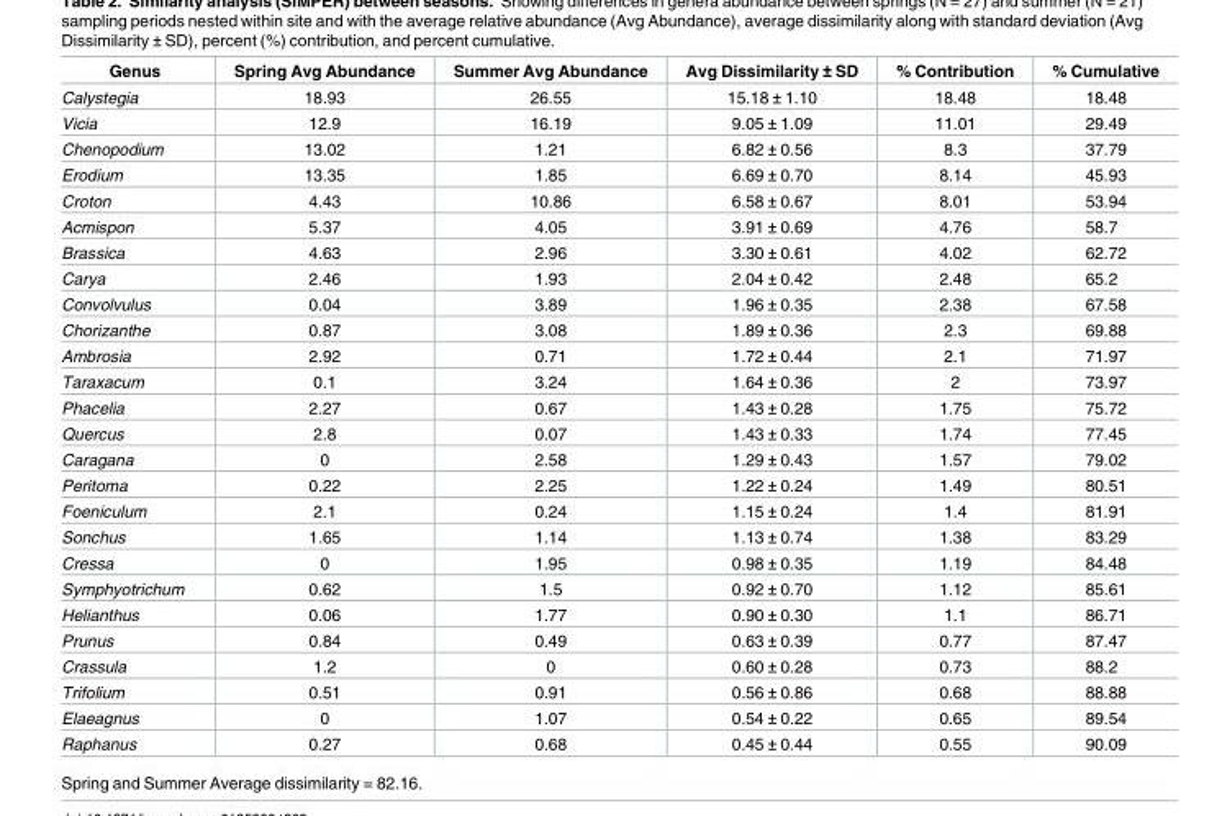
<table><thead><tr><td>Genus</td><td>Spring Avg Abundance</td><td>Summer Avg Abundance</td><td>Avg Dissimilarity ± SD</td><td>% Contribution</td><td>% Cumulative</td></tr></thead><tbody><tr><td>Calystegia</td><td>18.93</td><td>26.55</td><td>15.18 ± 1.10</td><td>18.48</td><td>18.48</td></tr><tr><td>Vicia</td><td>12.9</td><td>16.19</td><td>9.05 ± 1.09</td><td>11.01</td><td>29.49</td></tr><tr><td>Chenopodium</td><td>13.02</td><td>1.21</td><td>6.82 ± 0.56</td><td>8.3</td><td>37.79</td></tr><tr><td>Erodium</td><td>13.35</td><td>1.85</td><td>6.69 ± 0.70</td><td>8.14</td><td>45.93</td></tr><tr><td>Croton</td><td>4.43</td><td>10.86</td><td>6.58 ± 0.67</td><td>8.01</td><td>53.94</td></tr><tr><td>Acmispon</td><td>5.37</td><td>4.05</td><td>3.91 ± 0.69</td><td>4.76</td><td>58.7</td></tr><tr><td>Brassica</td><td>4.63</td><td>2.96</td><td>3.30 ± 0.61</td><td>4.02</td><td>62.72</td></tr><tr><td>Carya</td><td>2.46</td><td>1.93</td><td>2.04 ± 0.42</td><td>2.48</td><td>65.2</td></tr><tr><td>Convolvulus</td><td>0.04</td><td>3.89</td><td>1.96 ± 0.35</td><td>2.38</td><td>67.58</td></tr><tr><td>Chorizanthe</td><td>0.87</td><td>3.08</td><td>1.89 ± 0.36</td><td>2.3</td><td>69.88</td></tr><tr><td>Ambrosia</td><td>2.92</td><td>0.71</td><td>1.72 ± 0.44</td><td>2.1</td><td>71.97</td></tr><tr><td>Taraxacum</td><td>0.1</td><td>3.24</td><td>1.64 ± 0.36</td><td>2</td><td>73.97</td></tr><tr><td>Phacelia</td><td>2.27</td><td>0.67</td><td>1.43 ± 0.28</td><td>1.75</td><td>75.72</td></tr><tr><td>Quercus</td><td>2.8</td><td>0.07</td><td>1.43 ± 0.33</td><td>1.74</td><td>77.45</td></tr><tr><td>Caragana</td><td>0</td><td>2.58</td><td>1.29 ± 0.43</td><td>1.57</td><td>79.02</td></tr><tr><td>Peritoma</td><td>0.22</td><td>2.25</td><td>1.22 ± 0.24</td><td>1.49</td><td>80.51</td></tr><tr><td>Foeniculum</td><td>2.1</td><td>0.24</td><td>1.15 ± 0.24</td><td>1.4</td><td>81.91</td></tr><tr><td>Sonchus</td><td>1.65</td><td>1.14</td><td>1.13 ± 0.74</td><td>1.38</td><td>83.29</td></tr><tr><td>Cressa</td><td>0</td><td>1.95</td><td>0.98 ± 0.35</td><td>1.19</td><td>84.48</td></tr><tr><td>Symphyotrichum</td><td>0.62</td><td>1.5</td><td>0.92 ± 0.70</td><td>1.12</td><td>85.61</td></tr><tr><td>Helianthus</td><td>0.06</td><td>1.77</td><td>0.90 ± 0.30</td><td>1.1</td><td>86.71</td></tr><tr><td>Prunus</td><td>0.84</td><td>0.49</td><td>0.63 ± 0.39</td><td>0.77</td><td>87.47</td></tr><tr><td>Crassula</td><td>1.2</td><td>0</td><td>0.60 ± 0.28</td><td>0.73</td><td>88.2</td></tr><tr><td>Trifolium</td><td>0.51</td><td>0.91</td><td>0.56 ± 0.86</td><td>0.68</td><td>88.88</td></tr><tr><td>Elaeagnus</td><td>0</td><td>1.07</td><td>0.54 ± 0.22</td><td>0.65</td><td>89.54</td></tr><tr><td>Raphanus</td><td>0.27</td><td>0.68</td><td>0.45 ± 0.44</td><td>0.55</td><td>90.09</td></tr></tbody></table>